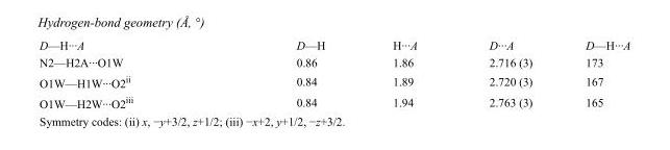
<table><tbody><tr><td>D—H···A</td><td>D—H</td><td>H···A</td><td>D···A</td><td>D—H···A</td></tr><tr><td>N2—H2A···O1W</td><td>0.86</td><td>1.86</td><td>2.716 (3)</td><td>173</td></tr><tr><td>O1W—H1W···O2<sup>ii</sup></td><td>0.84</td><td>1.89</td><td>2.720 (3)</td><td>167</td></tr><tr><td>O1W—H2W···O2<sup>iii</sup></td><td>0.84</td><td>1.94</td><td>2.763 (3)</td><td>165</td></tr></tbody></table>